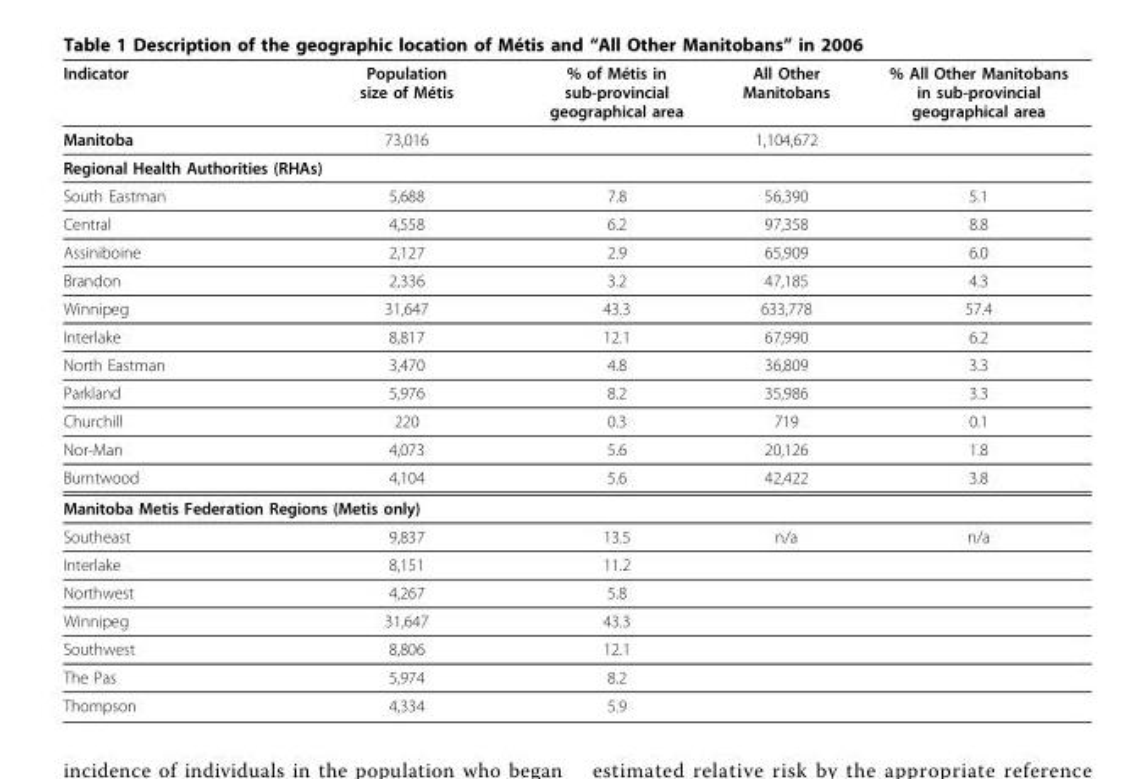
<table><thead><tr><td>Indicator</td><td>Population size of Métis</td><td>% of Métis in sub-provincial geographical area</td><td>All Other Manitobans</td><td>% All Other Manitobans in sub-provincial geographical area</td></tr></thead><tbody><tr><td>Manitoba</td><td>73,016</td><td></td><td>1,104,672</td><td></td></tr><tr><td colspan="5">Regional Health Authorities (RHAs)</td></tr><tr><td>South Eastman</td><td>5,688</td><td>7.8</td><td>56,390</td><td>5.1</td></tr><tr><td>Central</td><td>4,558</td><td>6.2</td><td>97,358</td><td>8.8</td></tr><tr><td>Assiniboine</td><td>2,127</td><td>2.9</td><td>65,909</td><td>6.0</td></tr><tr><td>Brandon</td><td>2,336</td><td>3.2</td><td>47,185</td><td>4.3</td></tr><tr><td>Winnipeg</td><td>31,647</td><td>43.3</td><td>633,778</td><td>57.4</td></tr><tr><td>Interlake</td><td>8,817</td><td>12.1</td><td>67,990</td><td>6.2</td></tr><tr><td>North Eastman</td><td>3,470</td><td>4.8</td><td>36,809</td><td>3.3</td></tr><tr><td>Parkland</td><td>5,976</td><td>8.2</td><td>35,986</td><td>3.3</td></tr><tr><td>Churchill</td><td>220</td><td>0.3</td><td>719</td><td>0.1</td></tr><tr><td>Nor-Man</td><td>4,073</td><td>5.6</td><td>20,126</td><td>1.8</td></tr><tr><td>Burntwood</td><td>4,104</td><td>5.6</td><td>42,422</td><td>3.8</td></tr><tr><td colspan="5">Manitoba Metis Federation Regions (Metis only)</td></tr><tr><td>Southeast</td><td>9,837</td><td>13.5</td><td>n/a</td><td>n/a</td></tr><tr><td>Interlake</td><td>8,151</td><td>11.2</td><td></td><td></td></tr><tr><td>Northwest</td><td>4,267</td><td>5.8</td><td></td><td></td></tr><tr><td>Winnipeg</td><td>31,647</td><td>43.3</td><td></td><td></td></tr><tr><td>Southwest</td><td>8,806</td><td>12.1</td><td></td><td></td></tr><tr><td>The Pas</td><td>5,974</td><td>8.2</td><td></td><td></td></tr><tr><td>Thompson</td><td>4,334</td><td>5.9</td><td></td><td></td></tr></tbody></table>